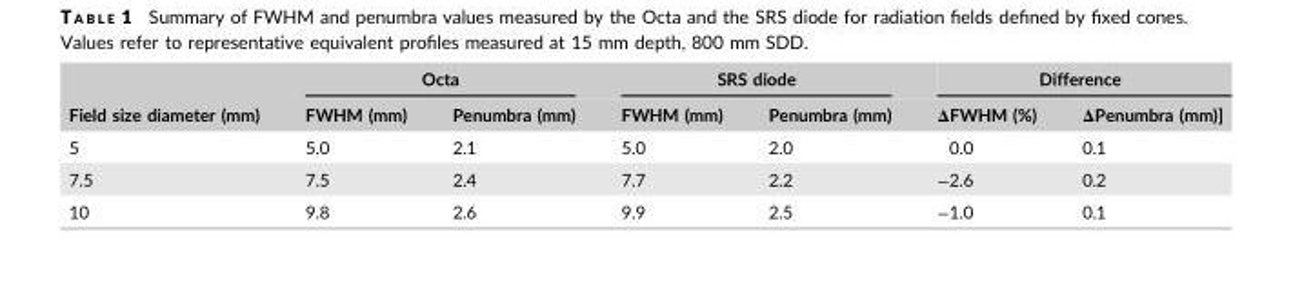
<table><thead><tr><td rowspan="2">Field size diameter (mm)</td><td colspan="2">Octa</td><td colspan="2">SRS diode</td><td colspan="2">Difference</td></tr><tr><td>FWHM (mm)</td><td>Penumbra (mm)</td><td>FWHM (mm)</td><td>Penumbra (mm)</td><td>ΔFWHM (%)</td><td>ΔPenumbra (mm)]</td></tr></thead><tbody><tr><td>5</td><td>5.0</td><td>2.1</td><td>5.0</td><td>2.0</td><td>0.0</td><td>0.1</td></tr><tr><td>7.5</td><td>7.5</td><td>2.4</td><td>7.7</td><td>2.2</td><td>−2.6</td><td>0.2</td></tr><tr><td>10</td><td>9.8</td><td>2.6</td><td>9.9</td><td>2.5</td><td>−1.0</td><td>0.1</td></tr></tbody></table>